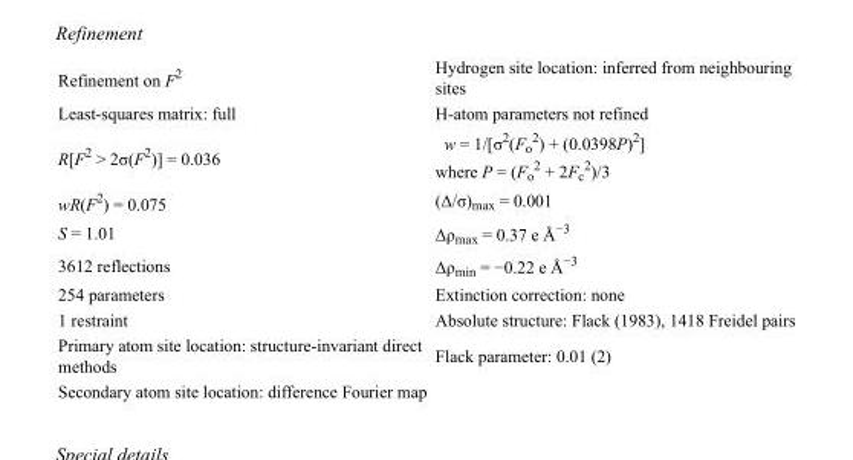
<table><tbody><tr><td>Refinement on F<sup>2</sup></td><td>Hydrogen site location: inferred from neighbouring sites</td></tr><tr><td>Least-squares matrix: full</td><td>H-atom parameters not refined</td></tr><tr><td>R[F<sup>2</sup> &gt; 2σ(F<sup>2</sup>)] = 0.036</td><td>w = 1/[σ<sup>2</sup>(F<sub>o</sub> <sup>2</sup>) + (0.0398P)<sup>2</sup>] where P = (F<sub>o</sub> <sup>2</sup> + 2F<sub>c</sub> <sup>2</sup>)/3</td></tr><tr><td>wR(F<sup>2</sup>) = 0.075</td><td>(Δ/σ)<sub>max</sub> = 0.001</td></tr><tr><td>S = 1.01</td><td>Δρ<sub>max</sub> = 0.37 e Å<sup>−3</sup></td></tr><tr><td>3612 reflections</td><td>Δρ<sub>min</sub> = −0.22 e Å<sup>−3</sup></td></tr><tr><td>254 parameters</td><td>Extinction correction: none</td></tr><tr><td>1 restraint</td><td>Absolute structure: Flack (1983), 1418 Freidel pairs</td></tr><tr><td>Primary atom site location: structure-invariant direct methods</td><td>Flack parameter: 0.01 (2)</td></tr><tr><td>Secondary atom site location: difference Fourier map</td><td></td></tr></tbody></table>